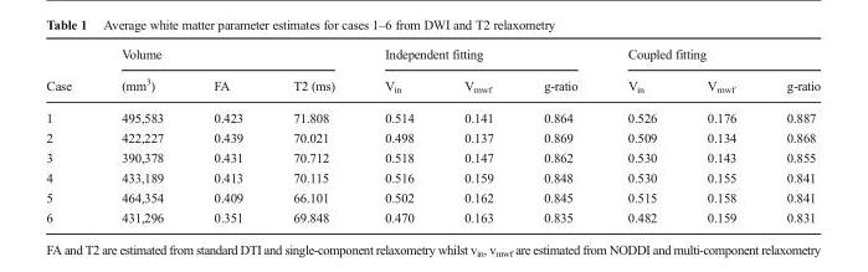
<table><thead><tr><td rowspan="2">Case</td><td colspan="3">Volume</td><td colspan="3">Independent fitting</td><td colspan="3">Coupled fitting</td></tr><tr><td>(mm<sup>3</sup>)</td><td>FA</td><td>T2 (ms)</td><td>V<sub>in</sub></td><td>V<sub>mwf</sub></td><td>g-ratio</td><td>V<sub>in</sub></td><td>V<sub>mwf</sub></td><td>g-ratio</td></tr></thead><tbody><tr><td>1</td><td>495,583</td><td>0.423</td><td>71.808</td><td>0.514</td><td>0.141</td><td>0.864</td><td>0.526</td><td>0.176</td><td>0.887</td></tr><tr><td>2</td><td>422,227</td><td>0.439</td><td>70.021</td><td>0.498</td><td>0.137</td><td>0.869</td><td>0.509</td><td>0.134</td><td>0.868</td></tr><tr><td>3</td><td>390,378</td><td>0.431</td><td>70.712</td><td>0.518</td><td>0.147</td><td>0.862</td><td>0.530</td><td>0.143</td><td>0.855</td></tr><tr><td>4</td><td>433,189</td><td>0.413</td><td>70.115</td><td>0.516</td><td>0.159</td><td>0.848</td><td>0.530</td><td>0.155</td><td>0.841</td></tr><tr><td>5</td><td>464,354</td><td>0.409</td><td>66.101</td><td>0.502</td><td>0.162</td><td>0.845</td><td>0.515</td><td>0.158</td><td>0.841</td></tr><tr><td>6</td><td>431,296</td><td>0.351</td><td>69.848</td><td>0.470</td><td>0.163</td><td>0.835</td><td>0.482</td><td>0.159</td><td>0.831</td></tr></tbody></table>